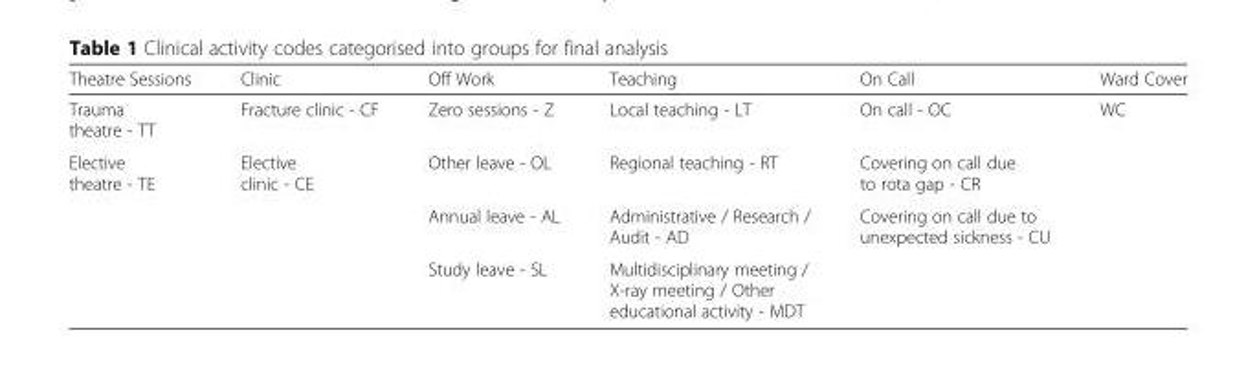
<table><thead><tr><td>Theatre Sessions</td><td>Clinic</td><td>Off Work</td><td>Teaching</td><td>On Call</td><td>Ward Cover</td></tr></thead><tbody><tr><td>Trauma theatre - TT</td><td>Fracture clinic - CF</td><td>Zero sessions - Z</td><td>Local teaching - LT</td><td>On call - OC</td><td>WC</td></tr><tr><td rowspan="3">Elective theatre - TE</td><td>Elective clinic - CE</td><td>Other leave - OL</td><td>Regional teaching - RT</td><td>Covering on call due to rota gap - CR</td><td></td></tr><tr><td></td><td>Annual leave - AL</td><td>Administrative / Research / Audit - AD</td><td>Covering on call due to unexpected sickness - CU</td><td></td></tr><tr><td></td><td>Study leave - SL</td><td>Multidisciplinary meeting / X-ray meeting / Other educational activity - MDT</td><td></td><td></td></tr></tbody></table>